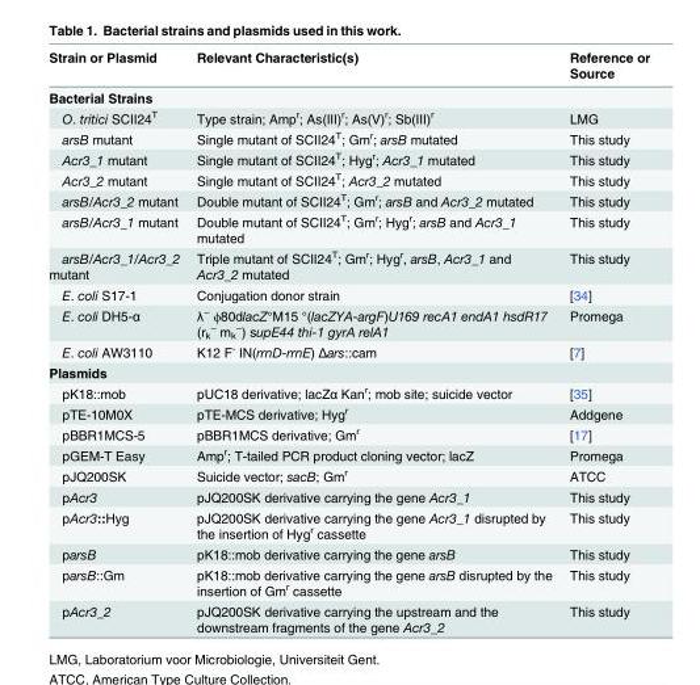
<table><thead><tr><td>Strain or Plasmid</td><td>Relevant Characteristic(s)</td><td>Reference or Source</td></tr></thead><tbody><tr><td colspan="3">Bacterial Strains</td></tr><tr><td>O. tritici SCII24<sup>T</sup></td><td>Type strain; Amp<sup>r</sup>; As(III)<sup>r</sup>; As(V)<sup>r</sup>; Sb(III)<sup>r</sup></td><td>LMG</td></tr><tr><td>arsB mutant</td><td>Single mutant of SCII24<sup>T</sup>; Gm<sup>r</sup>; arsB mutated</td><td>This study</td></tr><tr><td>Acr3_1 mutant</td><td>Single mutant of SCII24<sup>T</sup>; Hyg<sup>r</sup>; Acr3_1 mutated</td><td>This study</td></tr><tr><td>Acr3_2 mutant</td><td>Single mutant of SCII24<sup>T</sup>; Acr3_2 mutated</td><td>This study</td></tr><tr><td>arsB/Acr3_2 mutant</td><td>Double mutant of SCII24<sup>T</sup>; Gm<sup>r</sup>; arsB and Acr3_2 mutated</td><td>This study</td></tr><tr><td>arsB/Acr3_1 mutant</td><td>Double mutant of SCII24<sup>T</sup>; Gm<sup>r</sup>; Hyg<sup>r</sup>; arsB and Acr3_1 mutated</td><td>This study</td></tr><tr><td>arsB/Acr3_1/Acr3_2 mutant</td><td>Triple mutant of SCII24<sup>T</sup>; Gm<sup>r</sup>; Hyg<sup>r</sup>, arsB, Acr3_1 and Acr3_2 mutated</td><td>This study</td></tr><tr><td>E. coli S17-1</td><td>Conjugation donor strain</td><td>[34]</td></tr><tr><td>E. coli DH5-α</td><td>λ<sup>−</sup> ϕ80dlacZ°M15 °(lacZYA-argF)U169 recA1 endA1 hsdR17 (r<sub>k</sub> <sup>−</sup> m<sub>k</sub> <sup>−</sup>) supE44 thi-1 gyrA relA1</td><td>Promega</td></tr><tr><td>E. coli AW3110</td><td>K12 F<sup>-</sup> IN(rrnD-rrnE) Δars::cam</td><td>[7]</td></tr><tr><td colspan="3">Plasmids</td></tr><tr><td>pK18::mob</td><td>pUC18 derivative; lacZα Kan<sup>r</sup>; mob site; suicide vector</td><td>[35]</td></tr><tr><td>pTE-10M0X</td><td>pTE-MCS derivative; Hyg<sup>r</sup></td><td>Addgene</td></tr><tr><td>pBBR1MCS-5</td><td>pBBR1MCS derivative; Gm<sup>r</sup></td><td>[17]</td></tr><tr><td>pGEM-T Easy</td><td>Amp<sup>r</sup>; T-tailed PCR product cloning vector; lacZ</td><td>Promega</td></tr><tr><td>pJQ200SK</td><td>Suicide vector; sacB; Gm<sup>r</sup></td><td>ATCC</td></tr><tr><td>pAcr3</td><td>pJQ200SK derivative carrying the gene Acr3_1</td><td>This study</td></tr><tr><td>pAcr3::Hyg</td><td>pJQ200SK derivative carrying the gene Acr3_1 disrupted by the insertion of Hyg<sup>r</sup> cassette</td><td>This study</td></tr><tr><td>parsB</td><td>pK18::mob derivative carrying the gene arsB</td><td>This study</td></tr><tr><td>parsB::Gm</td><td>pK18::mob derivative carrying the gene arsB disrupted by the insertion of Gm<sup>r</sup> cassette</td><td>This study</td></tr><tr><td>pAcr3_2</td><td>pJQ200SK derivative carrying the upstream and the downstream fragments of the gene Acr3_2</td><td>This study</td></tr></tbody></table>